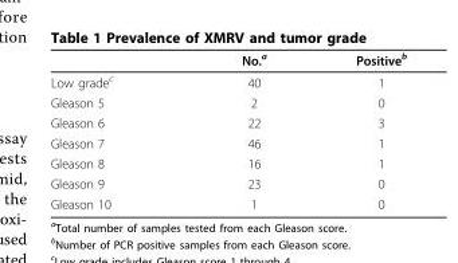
<table><thead><tr><td></td><td>No.<sup>a</sup></td><td>Positive<sup>b</sup></td></tr></thead><tbody><tr><td>Low grade<sup>c</sup></td><td>40</td><td>1</td></tr><tr><td>Gleason 5</td><td>2</td><td>0</td></tr><tr><td>Gleason 6</td><td>22</td><td>3</td></tr><tr><td>Gleason 7</td><td>46</td><td>1</td></tr><tr><td>Gleason 8</td><td>16</td><td>1</td></tr><tr><td>Gleason 9</td><td>23</td><td>0</td></tr><tr><td>Gleason 10</td><td>1</td><td>0</td></tr></tbody></table>